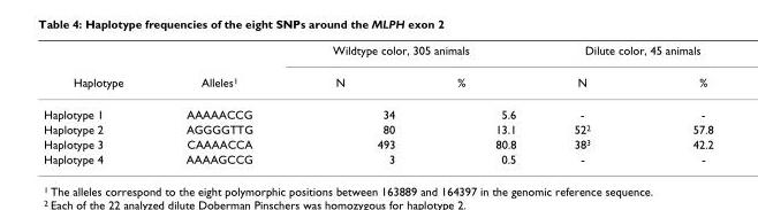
<table><thead><tr><td rowspan="2">Haplotype</td><td rowspan="2">Alleles<sup>1</sup></td><td colspan="2">Wildtype color, 305 animals</td><td colspan="2">Dilute color, 45 animals</td></tr><tr><td>N</td><td>%</td><td>N</td><td>%</td></tr></thead><tbody><tr><td>Haplotype 1</td><td>AAAAACCG</td><td>34</td><td>5.6</td><td>-</td><td>-</td></tr><tr><td>Haplotype 2</td><td>AGGGGTTG</td><td>80</td><td>13.1</td><td>52<sup>2</sup></td><td>57.8</td></tr><tr><td>Haplotype 3</td><td>CAAAACCA</td><td>493</td><td>80.8</td><td>38<sup>3</sup></td><td>42.2</td></tr><tr><td>Haplotype 4</td><td>AAAAGCCG</td><td>3</td><td>0.5</td><td>-</td><td>-</td></tr></tbody></table>